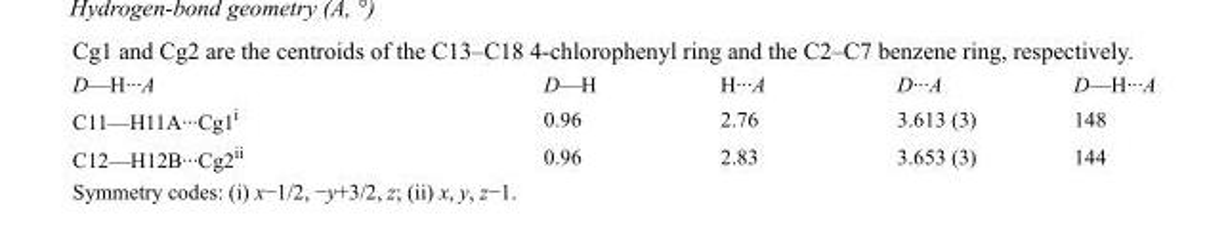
<table><tbody><tr><td>D—H···A</td><td>D—H</td><td>H···A</td><td>D···A</td><td>D—H···A</td></tr><tr><td>C11—H11A···Cg1<sup>i</sup></td><td>0.96</td><td>2.76</td><td>3.613 (3)</td><td>148</td></tr><tr><td>C12—H12B···Cg2<sup>ii</sup></td><td>0.96</td><td>2.83</td><td>3.653 (3)</td><td>144</td></tr></tbody></table>